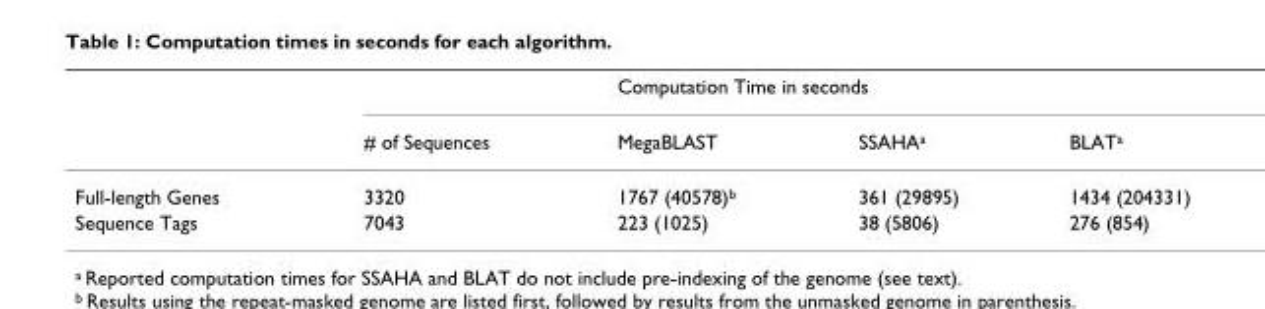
<table><thead><tr><td rowspan="2"></td><td rowspan="2"># of Sequences</td><td colspan="3">Computation Time in seconds</td></tr><tr><td>MegaBLAST</td><td>SSAHA<sup>a</sup></td><td>BLAT<sup>a</sup></td></tr></thead><tbody><tr><td>Full-length Genes</td><td>3320</td><td>1767 (40578)<sup>b</sup></td><td>361 (29895)</td><td>1434 (204331)</td></tr><tr><td>Sequence Tags</td><td>7043</td><td>223 (1025)</td><td>38 (5806)</td><td>276 (854)</td></tr></tbody></table>